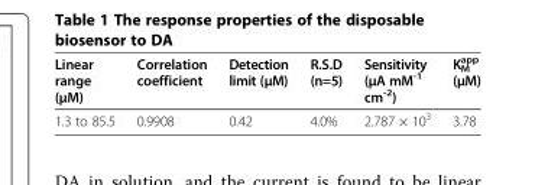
<table><thead><tr><td>Linear range (μM)</td><td>Correlation coefficient</td><td>Detection limit (μM)</td><td>R.S.D (n=5)</td><td>Sensitivity (μA mM<sup>-1</sup> cm<sup>-2</sup>)</td><td>K<sub>M</sub> <sup>app</sup> (μM)</td></tr></thead><tbody><tr><td>1.3 to 85.5</td><td>0.9908</td><td>0.42</td><td>4.0%</td><td>2.787 × 10<sup>3</sup></td><td>3.78</td></tr></tbody></table>